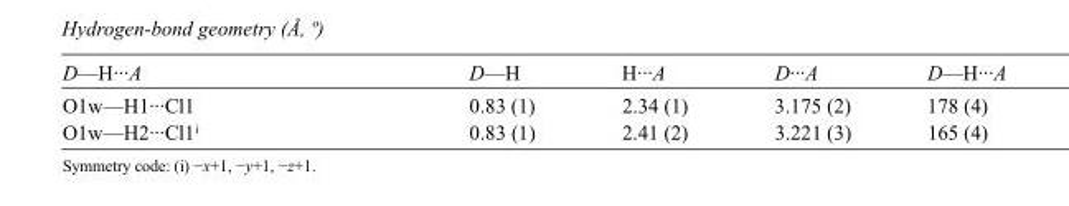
<table><tbody><tr><td>D—H···A</td><td>D—H</td><td>H···A</td><td>D···A</td><td>D—H···A</td></tr><tr><td>O1w—H1···Cl1</td><td>0.83 (1)</td><td>2.34 (1)</td><td>3.175 (2)</td><td>178 (4)</td></tr><tr><td>O1w—H2···Cl1<sup>i</sup></td><td>0.83 (1)</td><td>2.41 (2)</td><td>3.221 (3)</td><td>165 (4)</td></tr></tbody></table>